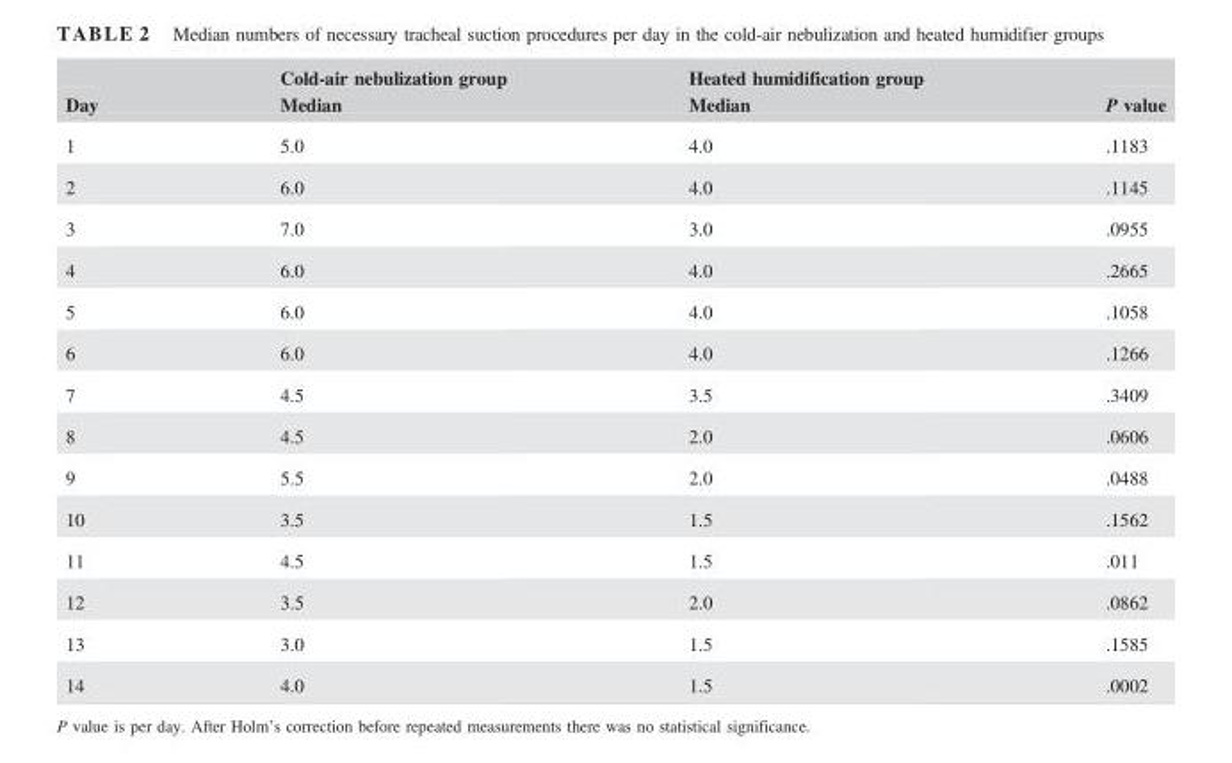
<table><thead><tr><td rowspan="2">Day</td><td rowspan="2">Cold-air nebulization group Median</td><td rowspan="2">Heated humidification group Median</td><td rowspan="2">P value</td></tr><tr></tr></thead><tbody><tr><td>1</td><td>5.0</td><td>4.0</td><td>.1183</td></tr><tr><td>2</td><td>6.0</td><td>4.0</td><td>.1145</td></tr><tr><td>3</td><td>7.0</td><td>3.0</td><td>.0955</td></tr><tr><td>4</td><td>6.0</td><td>4.0</td><td>.2665</td></tr><tr><td>5</td><td>6.0</td><td>4.0</td><td>.1058</td></tr><tr><td>6</td><td>6.0</td><td>4.0</td><td>.1266</td></tr><tr><td>7</td><td>4.5</td><td>3.5</td><td>.3409</td></tr><tr><td>8</td><td>4.5</td><td>2.0</td><td>.0606</td></tr><tr><td>9</td><td>5.5</td><td>2.0</td><td>.0488</td></tr><tr><td>10</td><td>3.5</td><td>1.5</td><td>.1562</td></tr><tr><td>11</td><td>4.5</td><td>1.5</td><td>.011</td></tr><tr><td>12</td><td>3.5</td><td>2.0</td><td>.0862</td></tr><tr><td>13</td><td>3.0</td><td>1.5</td><td>.1585</td></tr><tr><td>14</td><td>4.0</td><td>1.5</td><td>.0002</td></tr></tbody></table>